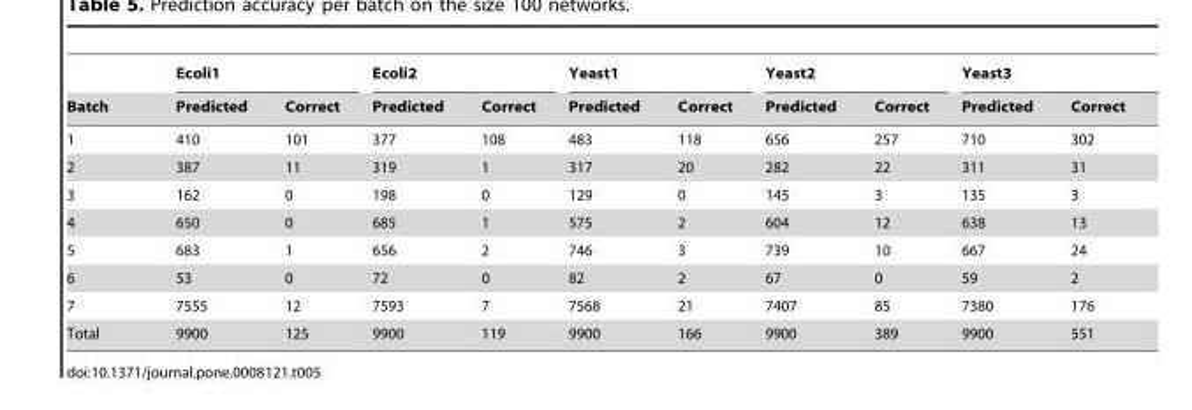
<table><thead><tr><td rowspan="2">Batch</td><td colspan="2">Ecoli1</td><td colspan="2">Ecoli2</td><td colspan="2">Yeast1</td><td colspan="2">Yeast2</td><td colspan="2">Yeast3</td></tr><tr><td>Predicted</td><td>Correct</td><td>Predicted</td><td>Correct</td><td>Predicted</td><td>Correct</td><td>Predicted</td><td>Correct</td><td>Predicted</td><td>Correct</td></tr></thead><tbody><tr><td>1</td><td>410</td><td>101</td><td>377</td><td>108</td><td>483</td><td>118</td><td>656</td><td>257</td><td>710</td><td>302</td></tr><tr><td>2</td><td>387</td><td>11</td><td>319</td><td>1</td><td>317</td><td>20</td><td>282</td><td>22</td><td>311</td><td>31</td></tr><tr><td>3</td><td>162</td><td>0</td><td>198</td><td>0</td><td>129</td><td>0</td><td>145</td><td>3</td><td>135</td><td>3</td></tr><tr><td>4</td><td>650</td><td>0</td><td>685</td><td>1</td><td>575</td><td>2</td><td>604</td><td>12</td><td>638</td><td>13</td></tr><tr><td>5</td><td>683</td><td>1</td><td>656</td><td>2</td><td>746</td><td>3</td><td>739</td><td>10</td><td>667</td><td>24</td></tr><tr><td>6</td><td>53</td><td>0</td><td>72</td><td>0</td><td>82</td><td>2</td><td>67</td><td>0</td><td>59</td><td>2</td></tr><tr><td>7</td><td>7555</td><td>12</td><td>7593</td><td>7</td><td>7568</td><td>21</td><td>7407</td><td>85</td><td>7380</td><td>176</td></tr><tr><td>Total</td><td>9900</td><td>125</td><td>9900</td><td>119</td><td>9900</td><td>166</td><td>9900</td><td>389</td><td>9900</td><td>551</td></tr></tbody></table>